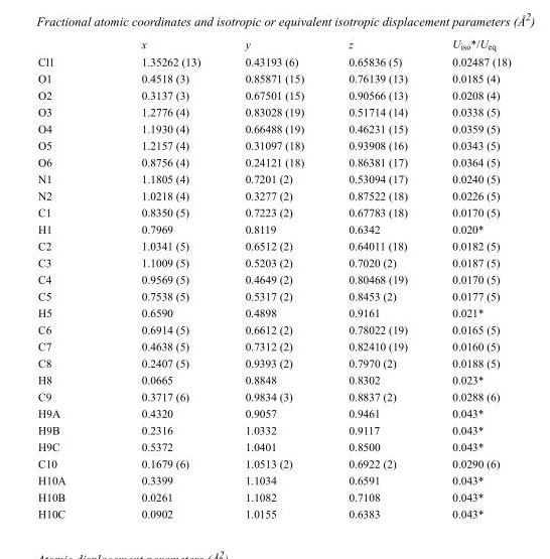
<table><thead><tr><td></td><td>x</td><td>y</td><td>z</td><td>U<sub>iso</sub>*/U<sub>eq</sub></td></tr></thead><tbody><tr><td>Cl1</td><td>1.35262 (13)</td><td>0.43193 (6)</td><td>0.65836 (5)</td><td>0.02487 (18)</td></tr><tr><td>O1</td><td>0.4518 (3)</td><td>0.85871 (15)</td><td>0.76139 (13)</td><td>0.0185 (4)</td></tr><tr><td>O2</td><td>0.3137 (3)</td><td>0.67501 (15)</td><td>0.90566 (13)</td><td>0.0208 (4)</td></tr><tr><td>O3</td><td>1.2776 (4)</td><td>0.83028 (19)</td><td>0.51714 (14)</td><td>0.0338 (5)</td></tr><tr><td>O4</td><td>1.1930 (4)</td><td>0.66488 (19)</td><td>0.46231 (15)</td><td>0.0359 (5)</td></tr><tr><td>O5</td><td>1.2157 (4)</td><td>0.31097 (18)</td><td>0.93908 (16)</td><td>0.0343 (5)</td></tr><tr><td>O6</td><td>0.8756 (4)</td><td>0.24121 (18)</td><td>0.86381 (17)</td><td>0.0364 (5)</td></tr><tr><td>N1</td><td>1.1805 (4)</td><td>0.7201 (2)</td><td>0.53094 (17)</td><td>0.0240 (5)</td></tr><tr><td>N2</td><td>1.0218 (4)</td><td>0.3277 (2)</td><td>0.87522 (18)</td><td>0.0226 (5)</td></tr><tr><td>C1</td><td>0.8350 (5)</td><td>0.7223 (2)</td><td>0.67783 (18)</td><td>0.0170 (5)</td></tr><tr><td>H1</td><td>0.7969</td><td>0.8119</td><td>0.6342</td><td>0.020*</td></tr><tr><td>C2</td><td>1.0341 (5)</td><td>0.6512 (2)</td><td>0.64011 (18)</td><td>0.0182 (5)</td></tr><tr><td>C3</td><td>1.1009 (5)</td><td>0.5203 (2)</td><td>0.7020 (2)</td><td>0.0187 (5)</td></tr><tr><td>C4</td><td>0.9569 (5)</td><td>0.4649 (2)</td><td>0.80468 (19)</td><td>0.0170 (5)</td></tr><tr><td>C5</td><td>0.7538 (5)</td><td>0.5317 (2)</td><td>0.8453 (2)</td><td>0.0177 (5)</td></tr><tr><td>H5</td><td>0.6590</td><td>0.4898</td><td>0.9161</td><td>0.021*</td></tr><tr><td>C6</td><td>0.6914 (5)</td><td>0.6612 (2)</td><td>0.78022 (19)</td><td>0.0165 (5)</td></tr><tr><td>C7</td><td>0.4638 (5)</td><td>0.7312 (2)</td><td>0.82410 (19)</td><td>0.0160 (5)</td></tr><tr><td>C8</td><td>0.2407 (5)</td><td>0.9393 (2)</td><td>0.7970 (2)</td><td>0.0188 (5)</td></tr><tr><td>H8</td><td>0.0665</td><td>0.8848</td><td>0.8302</td><td>0.023*</td></tr><tr><td>C9</td><td>0.3717 (6)</td><td>0.9834 (3)</td><td>0.8837 (2)</td><td>0.0288 (6)</td></tr><tr><td>H9A</td><td>0.4320</td><td>0.9057</td><td>0.9461</td><td>0.043*</td></tr><tr><td>H9B</td><td>0.2316</td><td>1.0332</td><td>0.9117</td><td>0.043*</td></tr><tr><td>H9C</td><td>0.5372</td><td>1.0401</td><td>0.8500</td><td>0.043*</td></tr><tr><td>C10</td><td>0.1679 (6)</td><td>1.0513 (2)</td><td>0.6922 (2)</td><td>0.0290 (6)</td></tr><tr><td>H10A</td><td>0.3399</td><td>1.1034</td><td>0.6591</td><td>0.043*</td></tr><tr><td>H10B</td><td>0.0261</td><td>1.1082</td><td>0.7108</td><td>0.043*</td></tr><tr><td>H10C</td><td>0.0902</td><td>1.0155</td><td>0.6383</td><td>0.043*</td></tr></tbody></table>